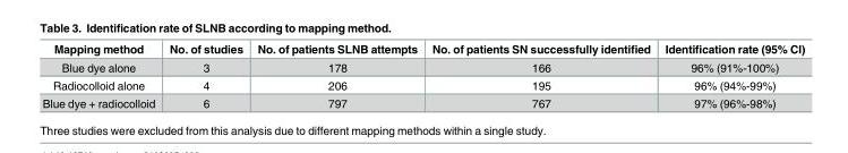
<table><thead><tr><td>Mapping method</td><td>No. of studies</td><td>No. of patients SLNB attempts</td><td>No. of patients SN successfully identified</td><td>Identification rate (95% CI)</td></tr></thead><tbody><tr><td>Blue dye alone</td><td>3</td><td>178</td><td>166</td><td>96% (91%-100%)</td></tr><tr><td>Radiocolloid alone</td><td>4</td><td>206</td><td>195</td><td>96% (94%-99%)</td></tr><tr><td>Blue dye + radiocolloid</td><td>6</td><td>797</td><td>767</td><td>97% (96%-98%)</td></tr></tbody></table>